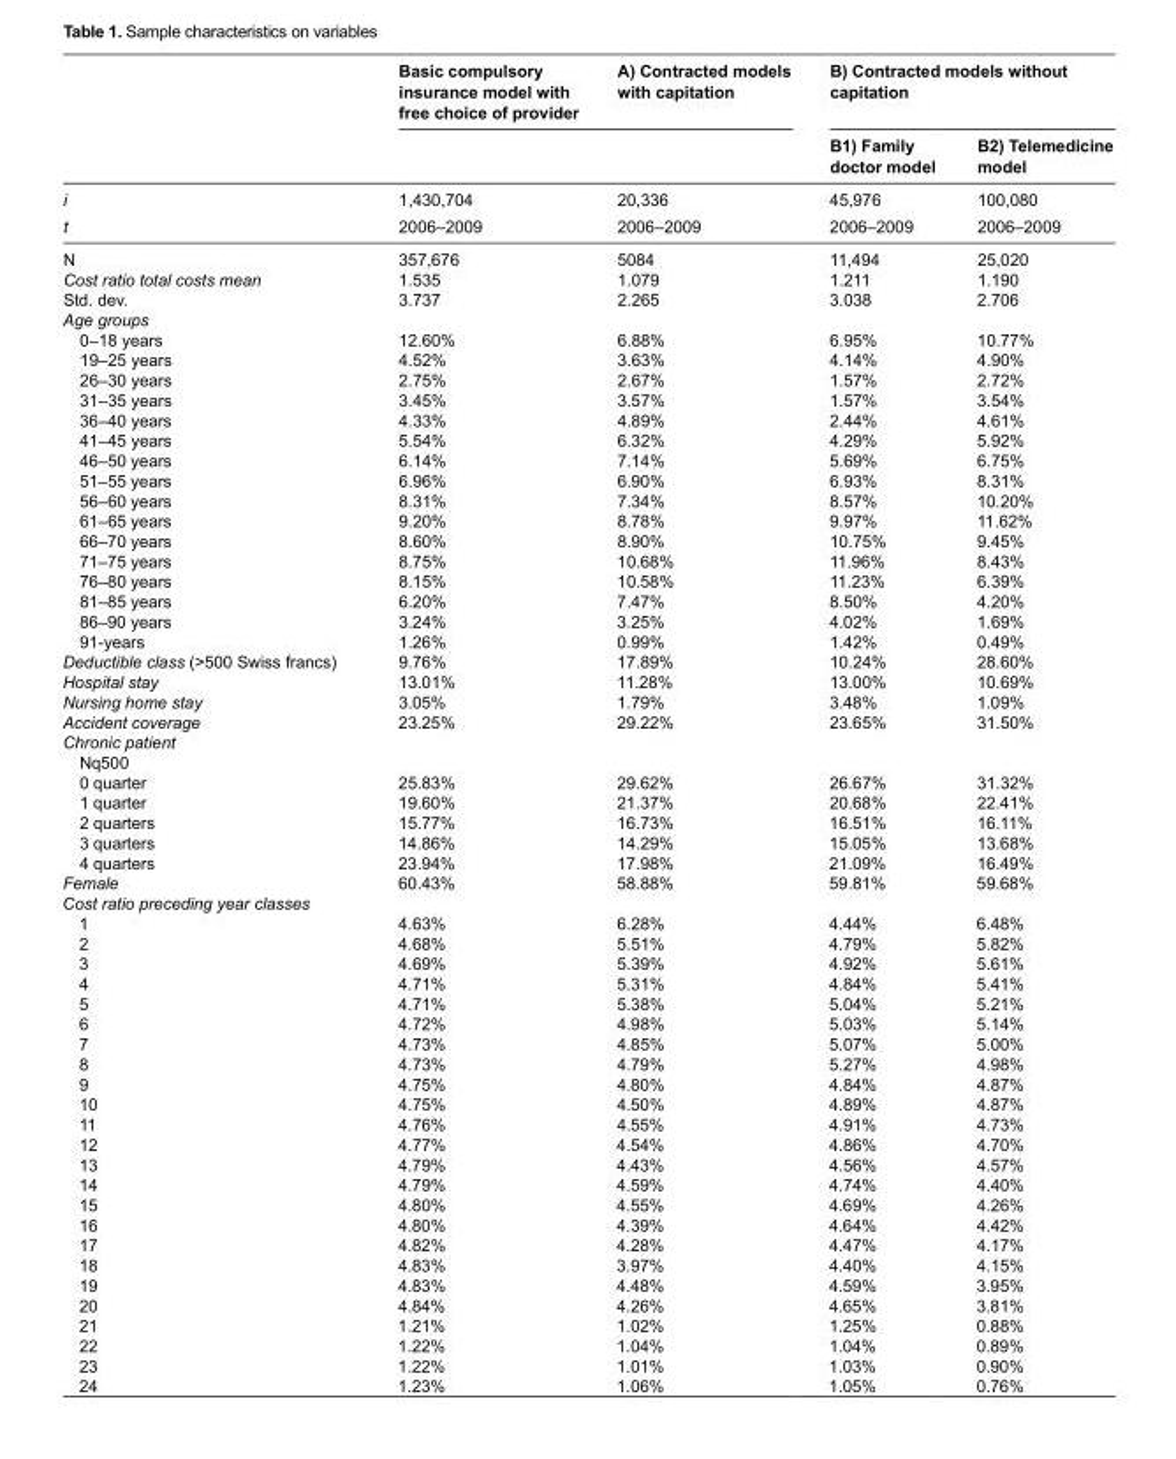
<table><thead><tr><td rowspan="2"></td><td rowspan="2">Basic compulsory insurance model with free choice of provider</td><td rowspan="2">A) Contracted models with capitation</td><td colspan="2">B) Contracted models without capitation</td></tr><tr><td>B1) Family doctor model</td><td>B2) Telemedicine model</td></tr></thead><tbody><tr><td>i</td><td>1,430,704</td><td>20,336</td><td>45,976</td><td>100,080</td></tr><tr><td>t</td><td>2006–2009</td><td>2006–2009</td><td>2006–2009</td><td>2006–2009</td></tr><tr><td>N</td><td>357,676</td><td>5084</td><td>11,494</td><td>25,020</td></tr><tr><td>Cost ratio total costs mean</td><td>1.535</td><td>1.079</td><td>1.211</td><td>1.190</td></tr><tr><td>Std. dev.</td><td>3.737</td><td>2.265</td><td>3.038</td><td>2.706</td></tr><tr><td colspan="5">Age groups</td></tr><tr><td>0–18 years</td><td>12.60%</td><td>6.88%</td><td>6.95%</td><td>10.77%</td></tr><tr><td>19–25 years</td><td>4.52%</td><td>3.63%</td><td>4.14%</td><td>4.90%</td></tr><tr><td>26–30 years</td><td>2.75%</td><td>2.67%</td><td>1.57%</td><td>2.72%</td></tr><tr><td>31–35 years</td><td>3.45%</td><td>3.57%</td><td>1.57%</td><td>3.54%</td></tr><tr><td>36–40 years</td><td>4.33%</td><td>4.89%</td><td>2.44%</td><td>4.61%</td></tr><tr><td>41–45 years</td><td>5.54%</td><td>6.32%</td><td>4.29%</td><td>5.92%</td></tr><tr><td>46–50 years</td><td>6.14%</td><td>7.14%</td><td>5.69%</td><td>6.75%</td></tr><tr><td>51–55 years</td><td>6.96%</td><td>6.90%</td><td>6.93%</td><td>8.31%</td></tr><tr><td>56–60 years</td><td>8.31%</td><td>7.34%</td><td>8.57%</td><td>10.20%</td></tr><tr><td>61–65 years</td><td>9.20%</td><td>8.78%</td><td>9.97%</td><td>11.62%</td></tr><tr><td>66–70 years</td><td>8.60%</td><td>8.90%</td><td>10.75%</td><td>9.45%</td></tr><tr><td>71–75 years</td><td>8.75%</td><td>10.68%</td><td>11.96%</td><td>8.43%</td></tr><tr><td>76–80 years</td><td>8.15%</td><td>10.58%</td><td>11.23%</td><td>6.39%</td></tr><tr><td>81–85 years</td><td>6.20%</td><td>7.47%</td><td>8.50%</td><td>4.20%</td></tr><tr><td>86–90 years</td><td>3.24%</td><td>3.25%</td><td>4.02%</td><td>1.69%</td></tr><tr><td>91-years</td><td>1.26%</td><td>0.99%</td><td>1.42%</td><td>0.49%</td></tr><tr><td>Deductible class (&gt;500 Swiss francs)</td><td>9.76%</td><td>17.89%</td><td>10.24%</td><td>28.60%</td></tr><tr><td>Hospital stay</td><td>13.01%</td><td>11.28%</td><td>13.00%</td><td>10.69%</td></tr><tr><td>Nursing home stay</td><td>3.05%</td><td>1.79%</td><td>3.48%</td><td>1.09%</td></tr><tr><td>Accident coverage</td><td>23.25%</td><td>29.22%</td><td>23.65%</td><td>31.50%</td></tr><tr><td colspan="5">Chronic patient</td></tr><tr><td colspan="5">Nq500</td></tr><tr><td>0 quarter</td><td>25.83%</td><td>29.62%</td><td>26.67%</td><td>31.32%</td></tr><tr><td>1 quarter</td><td>19.60%</td><td>21.37%</td><td>20.68%</td><td>22.41%</td></tr><tr><td>2 quarters</td><td>15.77%</td><td>16.73%</td><td>16.51%</td><td>16.11%</td></tr><tr><td>3 quarters</td><td>14.86%</td><td>14.29%</td><td>15.05%</td><td>13.68%</td></tr><tr><td>4 quarters</td><td>23.94%</td><td>17.98%</td><td>21.09%</td><td>16.49%</td></tr><tr><td>Female</td><td>60.43%</td><td>58.88%</td><td>59.81%</td><td>59.68%</td></tr><tr><td colspan="5">Cost ratio preceding year classes</td></tr><tr><td>1</td><td>4.63%</td><td>6.28%</td><td>4.44%</td><td>6.48%</td></tr><tr><td>2</td><td>4.68%</td><td>5.51%</td><td>4.79%</td><td>5.82%</td></tr><tr><td>3</td><td>4.69%</td><td>5.39%</td><td>4.92%</td><td>5.61%</td></tr><tr><td>4</td><td>4.71%</td><td>5.31%</td><td>4.84%</td><td>5.41%</td></tr><tr><td>5</td><td>4.71%</td><td>5.38%</td><td>5.04%</td><td>5.21%</td></tr><tr><td>6</td><td>4.72%</td><td>4.98%</td><td>5.03%</td><td>5.14%</td></tr><tr><td>7</td><td>4.73%</td><td>4.85%</td><td>5.07%</td><td>5.00%</td></tr><tr><td>8</td><td>4.73%</td><td>4.79%</td><td>5.27%</td><td>4.98%</td></tr><tr><td>9</td><td>4.75%</td><td>4.80%</td><td>4.84%</td><td>4.87%</td></tr><tr><td>10</td><td>4.75%</td><td>4.50%</td><td>4.89%</td><td>4.87%</td></tr><tr><td>11</td><td>4.76%</td><td>4.55%</td><td>4.91%</td><td>4.73%</td></tr><tr><td>12</td><td>4.77%</td><td>4.54%</td><td>4.86%</td><td>4.70%</td></tr><tr><td>13</td><td>4.79%</td><td>4.43%</td><td>4.56%</td><td>4.57%</td></tr><tr><td>14</td><td>4.79%</td><td>4.59%</td><td>4.74%</td><td>4.40%</td></tr><tr><td>15</td><td>4.80%</td><td>4.55%</td><td>4.69%</td><td>4.26%</td></tr><tr><td>16</td><td>4.80%</td><td>4.39%</td><td>4.64%</td><td>4.42%</td></tr><tr><td>17</td><td>4.82%</td><td>4.28%</td><td>4.47%</td><td>4.17%</td></tr><tr><td>18</td><td>4.83%</td><td>3.97%</td><td>4.40%</td><td>4.15%</td></tr><tr><td>19</td><td>4.83%</td><td>4.48%</td><td>4.59%</td><td>3.95%</td></tr><tr><td>20</td><td>4.84%</td><td>4.26%</td><td>4.65%</td><td>3.81%</td></tr><tr><td>21</td><td>1.21%</td><td>1.02%</td><td>1.25%</td><td>0.88%</td></tr><tr><td>22</td><td>1.22%</td><td>1.04%</td><td>1.04%</td><td>0.89%</td></tr><tr><td>23</td><td>1.22%</td><td>1.01%</td><td>1.03%</td><td>0.90%</td></tr><tr><td>24</td><td>1.23%</td><td>1.06%</td><td>1.05%</td><td>0.76%</td></tr></tbody></table>